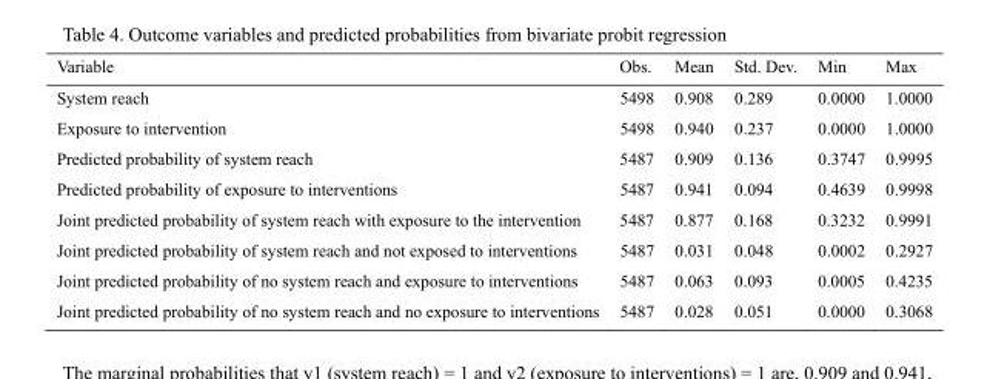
<table><thead><tr><td>Variable</td><td>Obs.</td><td>Mean</td><td>Std. Dev.</td><td>Min</td><td>Max</td></tr></thead><tbody><tr><td>System reach</td><td>5498</td><td>0.908</td><td>0.289</td><td>0.0000</td><td>1.0000</td></tr><tr><td>Exposure to intervention</td><td>5498</td><td>0.940</td><td>0.237</td><td>0.0000</td><td>1.0000</td></tr><tr><td>Predicted probability of system reach</td><td>5487</td><td>0.909</td><td>0.136</td><td>0.3747</td><td>0.9995</td></tr><tr><td>Predicted probability of exposure to interventions</td><td>5487</td><td>0.941</td><td>0.094</td><td>0.4639</td><td>0.9998</td></tr><tr><td>Joint predicted probability of system reach with exposure to the intervention</td><td>5487</td><td>0.877</td><td>0.168</td><td>0.3232</td><td>0.9991</td></tr><tr><td>Joint predicted probability of system reach and not exposed to interventions</td><td>5487</td><td>0.031</td><td>0.048</td><td>0.0002</td><td>0.2927</td></tr><tr><td>Joint predicted probability of no system reach and exposure to interventions</td><td>5487</td><td>0.063</td><td>0.093</td><td>0.0005</td><td>0.4235</td></tr><tr><td>Joint predicted probability of no system reach and no exposure to interventions</td><td>5487</td><td>0.028</td><td>0.051</td><td>0.0000</td><td>0.3068</td></tr></tbody></table>